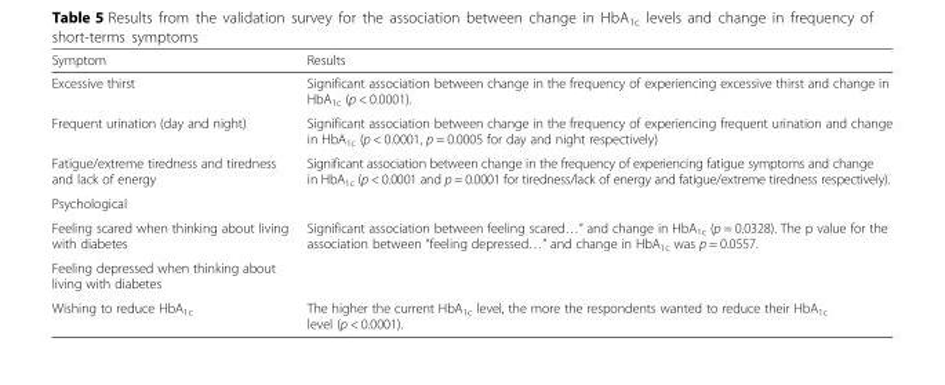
<table><thead><tr><td>Symptom</td><td>Results</td></tr></thead><tbody><tr><td>Excessive thirst</td><td>Significant association between change in the frequency of experiencing excessive thirst and change in HbA<sub>1c</sub> (p &lt; 0.0001).</td></tr><tr><td>Frequent urination (day and night)</td><td>Significant association between change in the frequency of experiencing frequent urination and change in HbA<sub>1c</sub> (p &lt; 0.0001, p = 0.0005 for day and night respectively)</td></tr><tr><td>Fatigue/extreme tiredness and tiredness and lack of energy</td><td>Significant association between change in the frequency of experiencing fatigue symptoms and change in HbA<sub>1c</sub> (p &lt; 0.0001 and p = 0.0001 for tiredness/lack of energy and fatigue/extreme tiredness respectively).</td></tr><tr><td colspan="2">Psychological</td></tr><tr><td>Feeling scared when thinking about living with diabetes</td><td rowspan="2">Significant association between feeling scared…” and change in HbA<sub>1c</sub> (p = 0.0328). The p value for the association between “feeling depressed…” and change in HbA<sub>1c</sub> was p = 0.0557.</td></tr><tr><td>Feeling depressed when thinking about living with diabetes</td></tr><tr><td>Wishing to reduce HbA<sub>1c</sub></td><td>The higher the current HbA<sub>1c</sub> level, the more the respondents wanted to reduce their HbA<sub>1c</sub> level (p &lt; 0.0001).</td></tr></tbody></table>